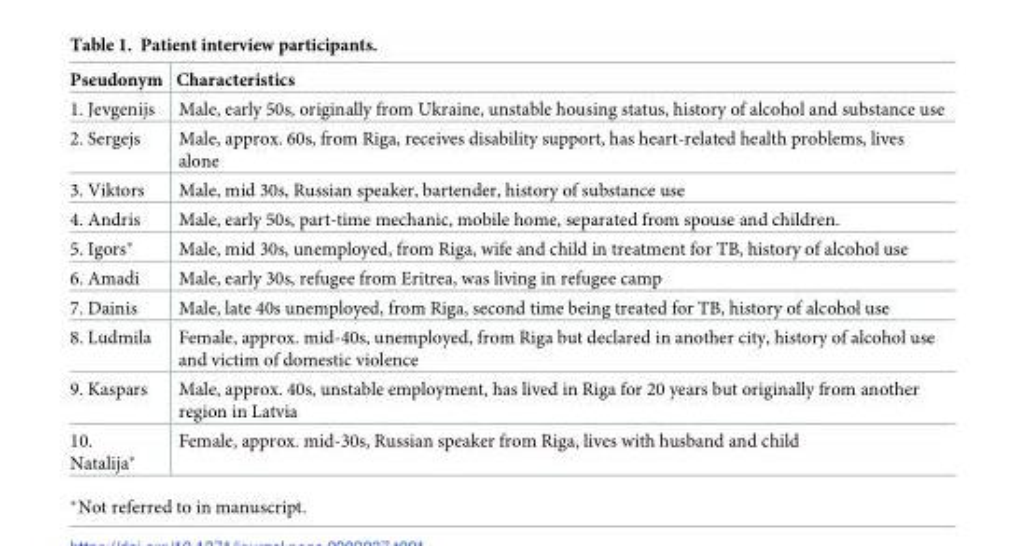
<table><thead><tr><td>Pseudonym</td><td>Characteristics</td></tr></thead><tbody><tr><td>1. Jevgenijs</td><td>Male, early 50s, originally from Ukraine, unstable housing status, history of alcohol and substance use</td></tr><tr><td>2. Sergejs</td><td>Male, approx. 60s, from Riga, receives disability support, has heart-related health problems, lives alone</td></tr><tr><td>3. Viktors</td><td>Male, mid 30s, Russian speaker, bartender, history of substance use</td></tr><tr><td>4. Andris</td><td>Male, early 50s, part-time mechanic, mobile home, separated from spouse and children.</td></tr><tr><td>5. Igors*</td><td>Male, mid 30s, unemployed, from Riga, wife and child in treatment for TB, history of alcohol use</td></tr><tr><td>6. Amadi</td><td>Male, early 30s, refugee from Eritrea, was living in refugee camp</td></tr><tr><td>7. Dainis</td><td>Male, late 40s unemployed, from Riga, second time being treated for TB, history of alcohol use</td></tr><tr><td>8. Ludmila</td><td>Female, approx. mid-40s, unemployed, from Riga but declared in another city, history of alcohol use and victim of domestic violence</td></tr><tr><td>9. Kaspars</td><td>Male, approx. 40s, unstable employment, has lived in Riga for 20 years but originally from another region in Latvia</td></tr><tr><td>10. Natalija*</td><td>Female, approx. mid-30s, Russian speaker from Riga, lives with husband and child</td></tr></tbody></table>